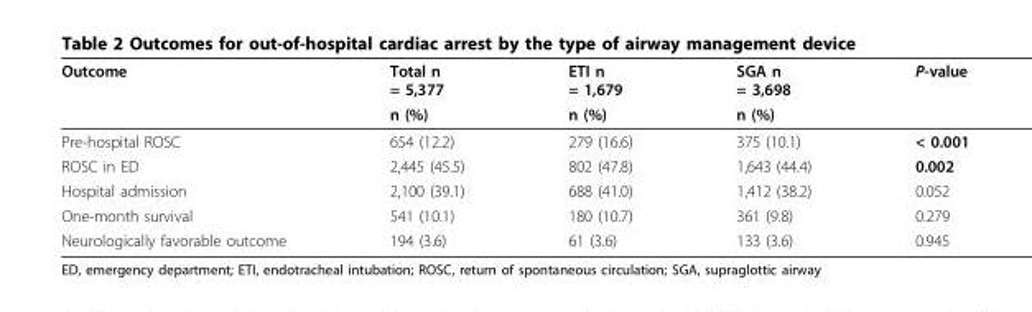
<table><thead><tr><td rowspan="2">Outcome</td><td rowspan="2">Total n = 5,377 n (%)</td><td rowspan="2">ETI n = 1,679 n (%)</td><td rowspan="2">SGA n = 3,698 n (%)</td><td rowspan="2">P-value</td></tr><tr></tr></thead><tbody><tr><td>Pre-hospital ROSC</td><td>654 (12.2)</td><td>279 (16.6)</td><td>375 (10.1)</td><td>&lt; 0.001</td></tr><tr><td>ROSC in ED</td><td>2,445 (45.5)</td><td>802 (47.8)</td><td>1,643 (44.4)</td><td>0.002</td></tr><tr><td>Hospital admission</td><td>2,100 (39.1)</td><td>688 (41.0)</td><td>1,412 (38.2)</td><td>0.052</td></tr><tr><td>One-month survival</td><td>541 (10.1)</td><td>180 (10.7)</td><td>361 (9.8)</td><td>0.279</td></tr><tr><td>Neurologically favorable outcome</td><td>194 (3.6)</td><td>61 (3.6)</td><td>133 (3.6)</td><td>0.945</td></tr></tbody></table>